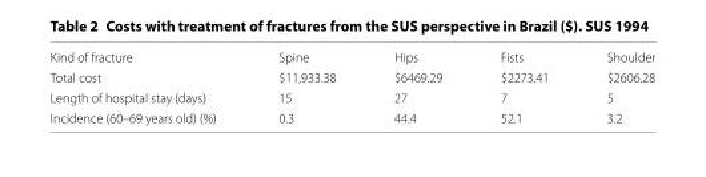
<table><tbody><tr><td>Kind of fracture</td><td>Spine</td><td>Hips</td><td>Fists</td><td>Shoulder</td></tr><tr><td>Total cost</td><td>$11,933.38</td><td>$6469.29</td><td>$2273.41</td><td>$2606.28</td></tr><tr><td>Length of hospital stay (days)</td><td>15</td><td>27</td><td>7</td><td>5</td></tr><tr><td>Incidence (60–69 years old) (%)</td><td>0.3</td><td>44.4</td><td>52.1</td><td>3.2</td></tr></tbody></table>